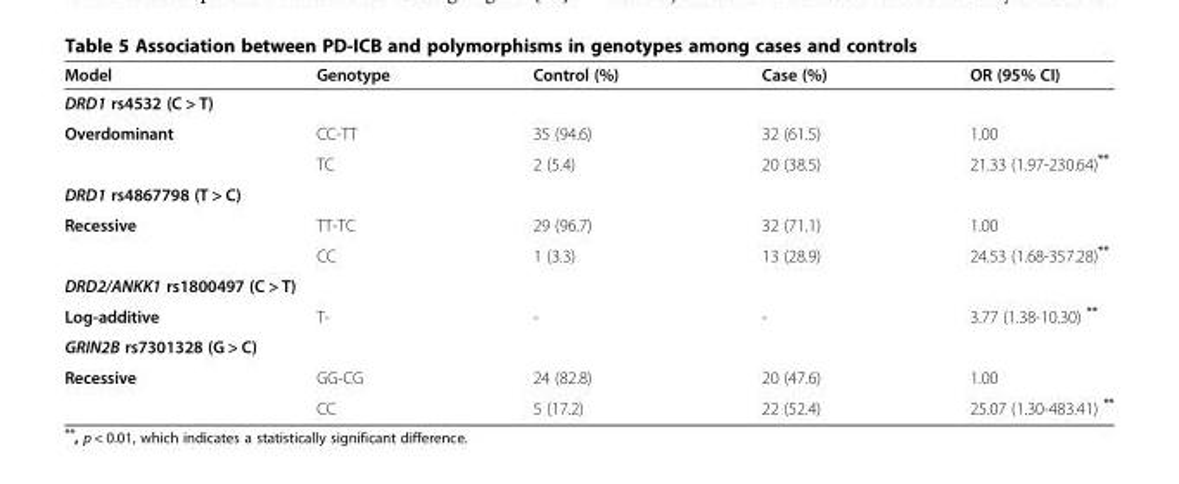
<table><thead><tr><td>Model</td><td>Genotype</td><td>Control (%)</td><td>Case (%)</td><td>OR (95% CI)</td></tr></thead><tbody><tr><td colspan="5">DRD1 rs4532 (C &gt; T)</td></tr><tr><td rowspan="2">Overdominant</td><td>CC-TT</td><td>35 (94.6)</td><td>32 (61.5)</td><td>1.00</td></tr><tr><td>TC</td><td>2 (5.4)</td><td>20 (38.5)</td><td>21.33 (1.97-230.64)**</td></tr><tr><td colspan="5">DRD1 rs4867798 (T &gt; C)</td></tr><tr><td rowspan="2">Recessive</td><td>TT-TC</td><td>29 (96.7)</td><td>32 (71.1)</td><td>1.00</td></tr><tr><td>CC</td><td>1 (3.3)</td><td>13 (28.9)</td><td>24.53 (1.68-357.28)**</td></tr><tr><td colspan="5">DRD2/ANKK1 rs1800497 (C &gt; T)</td></tr><tr><td>Log-additive</td><td>T-</td><td>-</td><td>-</td><td>3.77 (1.38-10.30) **</td></tr><tr><td colspan="5">GRIN2B rs7301328 (G &gt; C)</td></tr><tr><td rowspan="2">Recessive</td><td>GG-CG</td><td>24 (82.8)</td><td>20 (47.6)</td><td>1.00</td></tr><tr><td>CC</td><td>5 (17.2)</td><td>22 (52.4)</td><td>25.07 (1.30-483.41) **</td></tr></tbody></table>